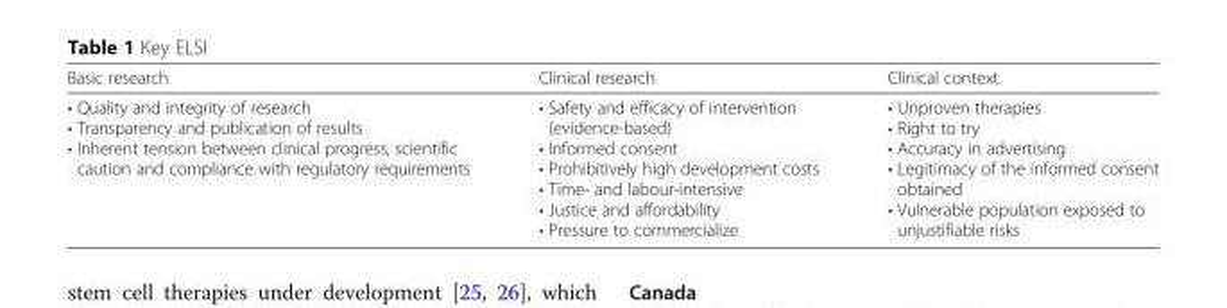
<table><thead><tr><td>Basic research</td><td>Clinical research</td><td>Clinical context</td></tr></thead><tbody><tr><td>• Quality and integrity of research • Transparency and publication of results • Inherent tension between clinical progress, scientific caution and compliance with regulatory requirements</td><td>• Safety and efficacy of intervention (evidence-based) • Informed consent • Prohibitively high development costs • Time- and labour-intensive • Justice and affordability • Pressure to commercialize</td><td>• Unproven therapies • Right to try • Accuracy in advertising • Legitimacy of the informed consent obtained • Vulnerable population exposed to unjustifiable risks</td></tr></tbody></table>